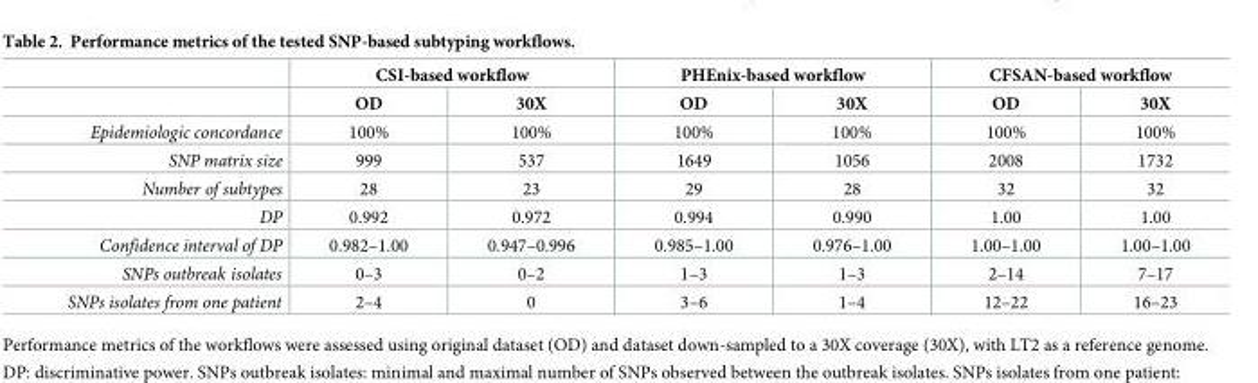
<table><thead><tr><td rowspan="2"></td><td colspan="2">CSI-based workflow</td><td colspan="2">PHEnix-based workflow</td><td colspan="2">CFSAN-based workflow</td></tr><tr><td>OD</td><td>30X</td><td>OD</td><td>30X</td><td>OD</td><td>30X</td></tr></thead><tbody><tr><td>Epidemiologic concordance</td><td>100%</td><td>100%</td><td>100%</td><td>100%</td><td>100%</td><td>100%</td></tr><tr><td>SNP matrix size</td><td>999</td><td>537</td><td>1649</td><td>1056</td><td>2008</td><td>1732</td></tr><tr><td>Number of subtypes</td><td>28</td><td>23</td><td>29</td><td>28</td><td>32</td><td>32</td></tr><tr><td>DP</td><td>0.992</td><td>0.972</td><td>0.994</td><td>0.990</td><td>1.00</td><td>1.00</td></tr><tr><td>Confidence interval of DP</td><td>0.982–1.00</td><td>0.947–0.996</td><td>0.985–1.00</td><td>0.976–1.00</td><td>1.00–1.00</td><td>1.00–1.00</td></tr><tr><td>SNPs outbreak isolates</td><td>0–3</td><td>0–2</td><td>1–3</td><td>1–3</td><td>2–14</td><td>7–17</td></tr><tr><td>SNPs isolates from one patient</td><td>2–4</td><td>0</td><td>3–6</td><td>1–4</td><td>12–22</td><td>16–23</td></tr></tbody></table>